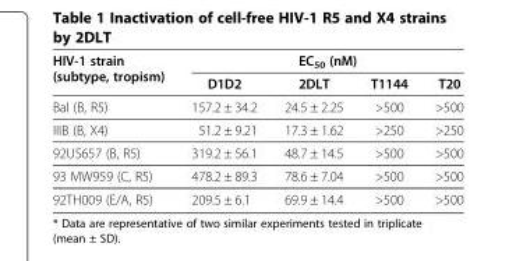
<table><thead><tr><td rowspan="2">HIV-1 strain (subtype, tropism)</td><td colspan="4">EC<sub>50</sub> (nM)</td></tr><tr><td>D1D2</td><td>2DLT</td><td>T1144</td><td>T20</td></tr></thead><tbody><tr><td>Bal (B, R5)</td><td>157.2 ± 34.2</td><td>24.5 ± 2.25</td><td>&gt;500</td><td>&gt;500</td></tr><tr><td>IIIB (B, X4)</td><td>51.2 ± 9.21</td><td>17.3 ± 1.62</td><td>&gt;250</td><td>&gt;250</td></tr><tr><td>92US657 (B, R5)</td><td>319.2 ± 56.1</td><td>48.7 ± 14.5</td><td>&gt;500</td><td>&gt;500</td></tr><tr><td>93 MW959 (C, R5)</td><td>478.2 ± 89.3</td><td>78.6 ± 7.04</td><td>&gt;500</td><td>&gt;500</td></tr><tr><td>92TH009 (E/A, R5)</td><td>209.5 ± 6.1</td><td>69.9 ± 14.4</td><td>&gt;500</td><td>&gt;500</td></tr></tbody></table>